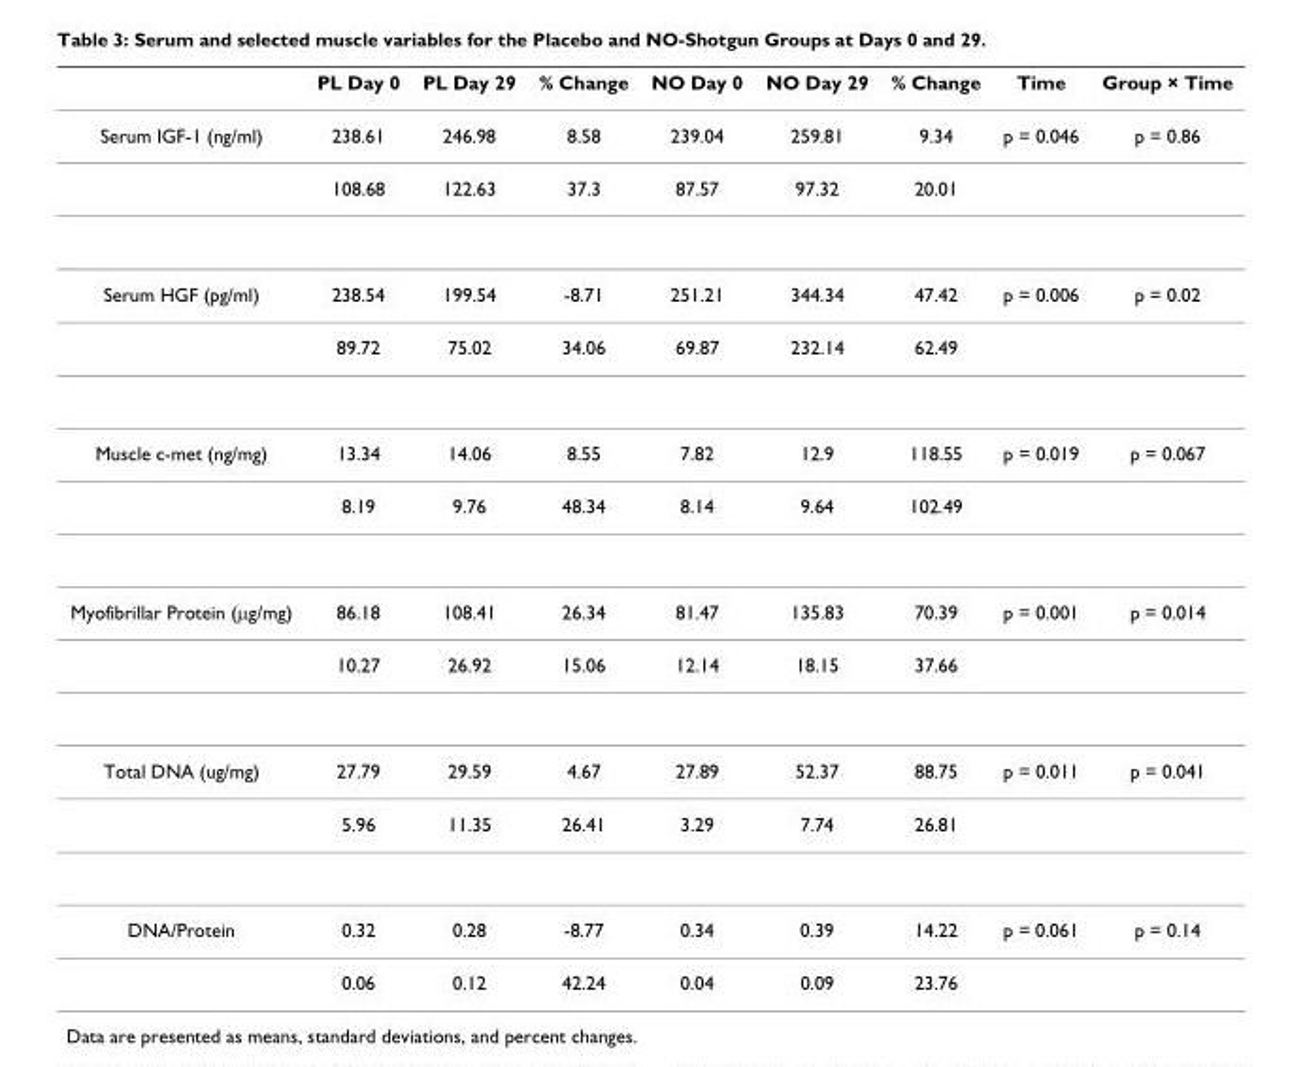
<table><thead><tr><td></td><td>PL Day 0</td><td>PL Day 29</td><td>% Change</td><td>NO Day 0</td><td>NO Day 29</td><td>% Change</td><td>Time</td><td>Group × Time</td></tr></thead><tbody><tr><td rowspan="2">Serum IGF-1 (ng/ml)</td><td>238.61</td><td>246.98</td><td>8.58</td><td>239.04</td><td>259.81</td><td>9.34</td><td>p = 0.046</td><td>p = 0.86</td></tr><tr><td>108.68</td><td>122.63</td><td>37.3</td><td>87.57</td><td>97.32</td><td>20.01</td><td></td><td></td></tr><tr><td rowspan="2">Serum HGF (pg/ml)</td><td>238.54</td><td>199.54</td><td>-8.71</td><td>251.21</td><td>344.34</td><td>47.42</td><td>p = 0.006</td><td>p = 0.02</td></tr><tr><td>89.72</td><td>75.02</td><td>34.06</td><td>69.87</td><td>232.14</td><td>62.49</td><td></td><td></td></tr><tr><td rowspan="2">Muscle c-met (ng/mg)</td><td>13.34</td><td>14.06</td><td>8.55</td><td>7.82</td><td>12.9</td><td>118.55</td><td>p = 0.019</td><td>p = 0.067</td></tr><tr><td>8.19</td><td>9.76</td><td>48.34</td><td>8.14</td><td>9.64</td><td>102.49</td><td></td><td></td></tr><tr><td rowspan="2">Myofibrillar Protein (μg/mg)</td><td>86.18</td><td>108.41</td><td>26.34</td><td>81.47</td><td>135.83</td><td>70.39</td><td>p = 0.001</td><td>p = 0.014</td></tr><tr><td>10.27</td><td>26.92</td><td>15.06</td><td>12.14</td><td>18.15</td><td>37.66</td><td></td><td></td></tr><tr><td rowspan="2">Total DNA (ug/mg)</td><td>27.79</td><td>29.59</td><td>4.67</td><td>27.89</td><td>52.37</td><td>88.75</td><td>p = 0.011</td><td>p = 0.041</td></tr><tr><td>5.96</td><td>11.35</td><td>26.41</td><td>3.29</td><td>7.74</td><td>26.81</td><td></td><td></td></tr><tr><td rowspan="2">DNA/Protein</td><td>0.32</td><td>0.28</td><td>-8.77</td><td>0.34</td><td>0.39</td><td>14.22</td><td>p = 0.061</td><td>p = 0.14</td></tr><tr><td>0.06</td><td>0.12</td><td>42.24</td><td>0.04</td><td>0.09</td><td>23.76</td><td></td><td></td></tr></tbody></table>